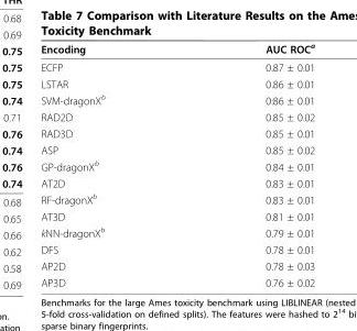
<table><thead><tr><td>Encoding</td><td>AUC ROC<sup>a</sup></td></tr></thead><tbody><tr><td>ECFP</td><td>0.87 ± 0.01</td></tr><tr><td>LSTAR</td><td>0.86 ± 0.01</td></tr><tr><td>SVM-dragonX<sup>b</sup></td><td>0:86 ± 0.01</td></tr><tr><td>RAD2D</td><td>0.85 ± 0.02</td></tr><tr><td>RAD3D</td><td>0.85 ± 0.01</td></tr><tr><td>ASP</td><td>0.85 ± 0.02</td></tr><tr><td>GP-dragonX<sup>b</sup></td><td>0.84 ± 0.01</td></tr><tr><td>AT2D</td><td>0.83 ± 0.01</td></tr><tr><td>RF-dragonX<sup>b</sup></td><td>0.83 ± 0.01</td></tr><tr><td>AT3D</td><td>0.81 ± 0.01</td></tr><tr><td>kNN-dragonX<sup>b</sup></td><td>0.79 ± 0.01</td></tr><tr><td>DFS</td><td>0.78 ± 0.01</td></tr><tr><td>AP2D</td><td>0.78 ± 0.03</td></tr><tr><td>AP3D</td><td>0.76 ± 0.02</td></tr></tbody></table>